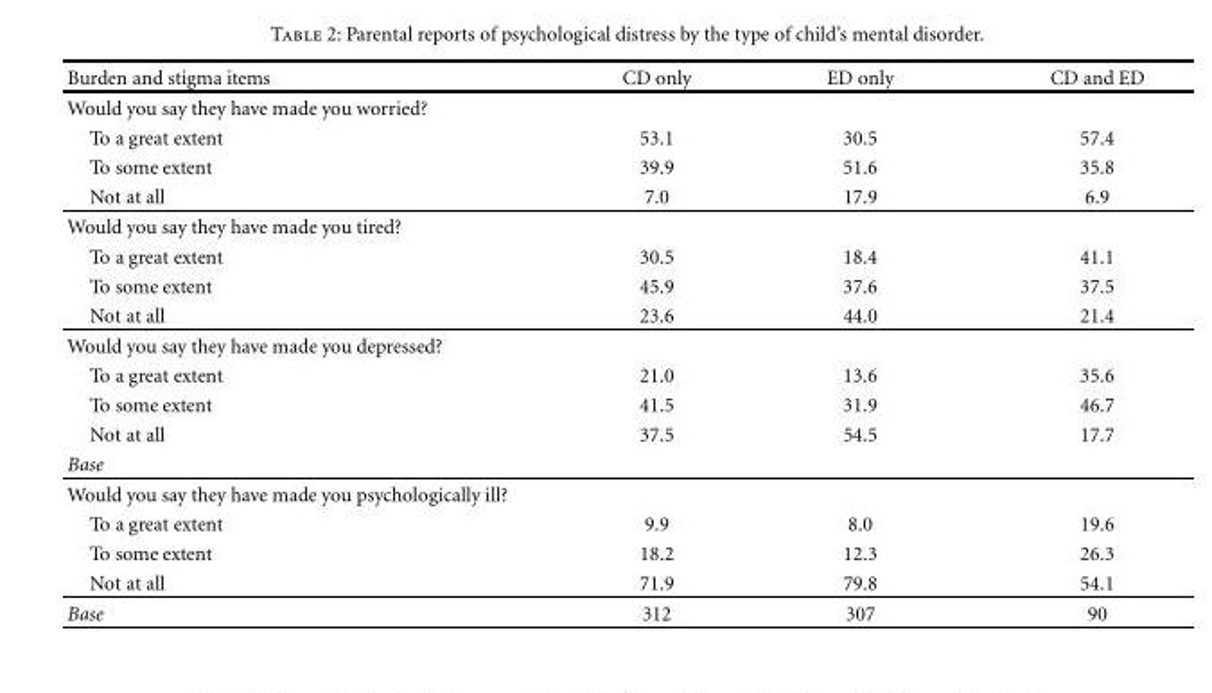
<table><thead><tr><td>Burden and stigma items</td><td>CD only</td><td>ED only</td><td>CD and ED</td></tr></thead><tbody><tr><td colspan="4">Would you say they have made you worried?</td></tr><tr><td>To a great extent</td><td>53.1</td><td>30.5</td><td>57.4</td></tr><tr><td>To some extent</td><td>39.9</td><td>51.6</td><td>35.8</td></tr><tr><td>Not at all</td><td>7.0</td><td>17.9</td><td>6.9</td></tr><tr><td colspan="4">Would you say they have made you tired?</td></tr><tr><td>To a great extent</td><td>30.5</td><td>18.4</td><td>41.1</td></tr><tr><td>To some extent</td><td>45.9</td><td>37.6</td><td>37.5</td></tr><tr><td>Not at all</td><td>23.6</td><td>44.0</td><td>21.4</td></tr><tr><td colspan="4">Would you say they have made you depressed?</td></tr><tr><td>To a great extent</td><td>21.0</td><td>13.6</td><td>35.6</td></tr><tr><td>To some extent</td><td>41.5</td><td>31.9</td><td>46.7</td></tr><tr><td>Not at all</td><td>37.5</td><td>54.5</td><td>17.7</td></tr><tr><td colspan="4">Base</td></tr><tr><td colspan="4">Would you say they have made you psychologically ill?</td></tr><tr><td>To a great extent</td><td>9.9</td><td>8.0</td><td>19.6</td></tr><tr><td>To some extent</td><td>18.2</td><td>12.3</td><td>26.3</td></tr><tr><td>Not at all</td><td>71.9</td><td>79.8</td><td>54.1</td></tr><tr><td>Base</td><td>312</td><td>307</td><td>90</td></tr></tbody></table>